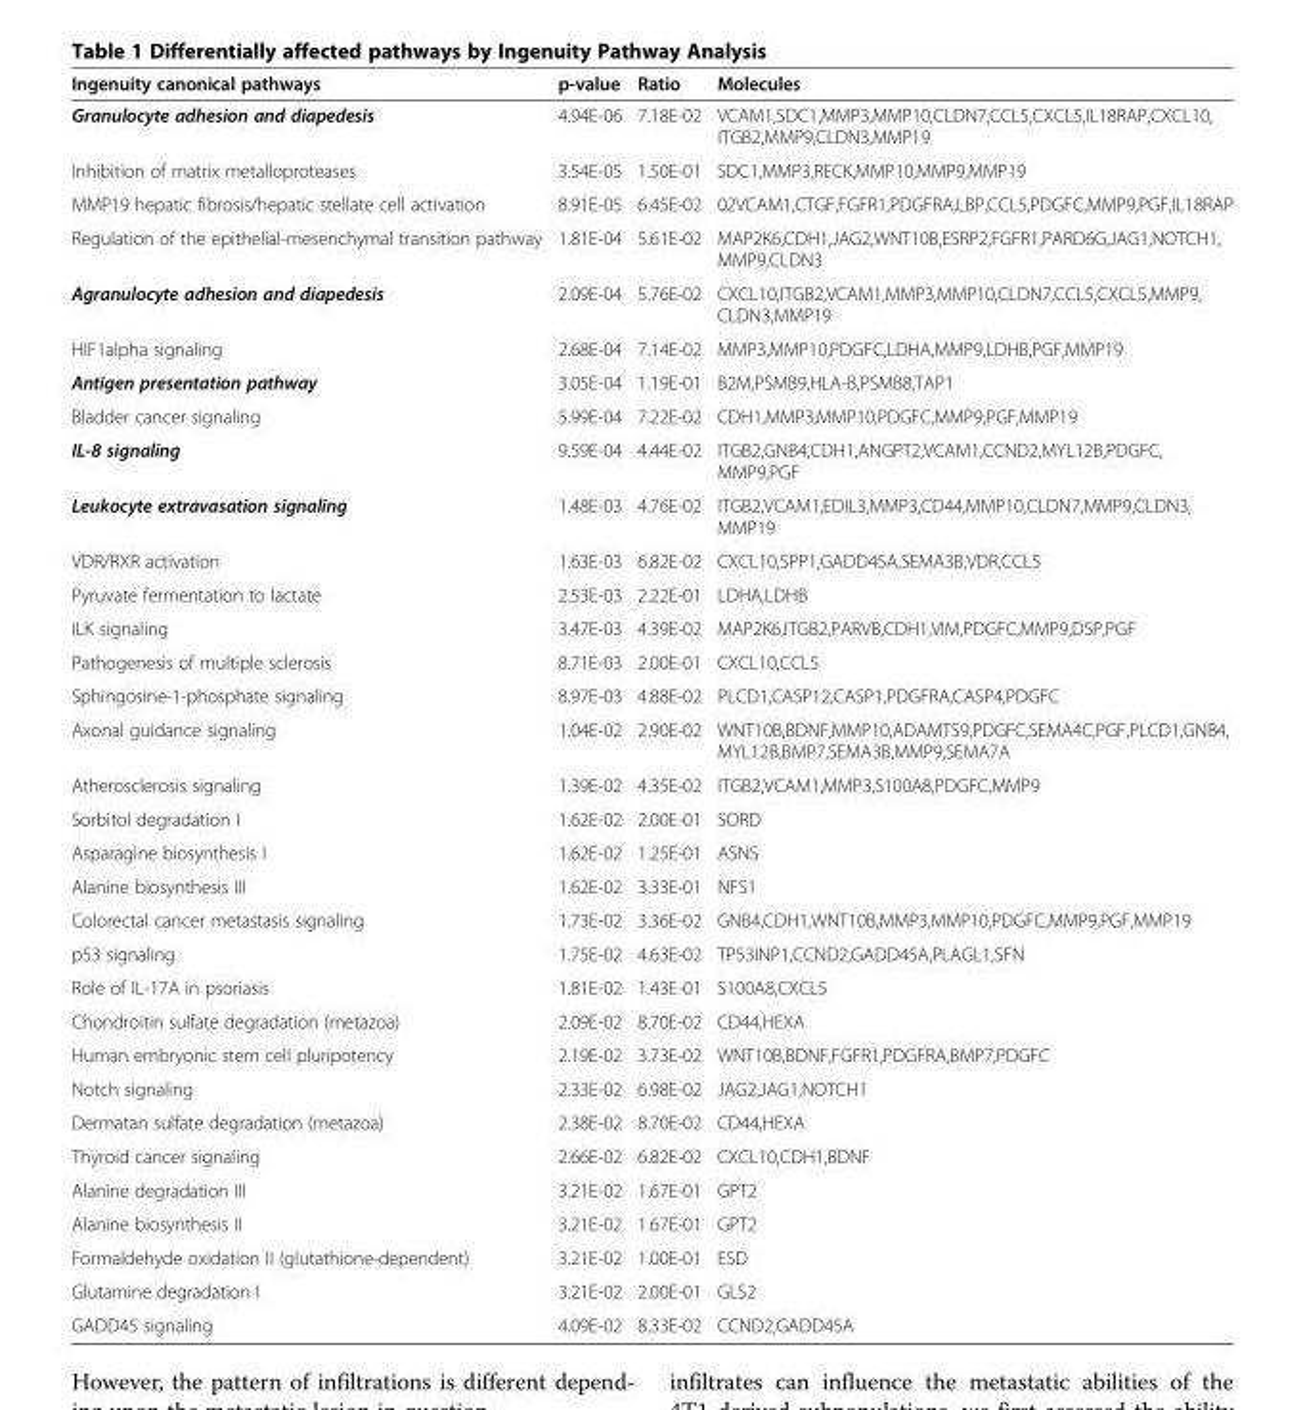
<table><thead><tr><td>Ingenuity canonical pathways</td><td>p-value</td><td>Ratio</td><td>Molecules</td></tr></thead><tbody><tr><td>Granulocyte adhesion and diapedesis</td><td>4.94E-06</td><td>7.18E-02</td><td>VCAM1,SDC1,MMP3,MMP10,CLDN7,CCL5,CXCL5,IL18RAP,CXCL10, ITGB2,MMP9,CLDN3,MMP19</td></tr><tr><td>Inhibition of matrix metalloproteases</td><td>3.54E-05</td><td>1.50E-01</td><td>SDC1,MMP3,RECK,MMP10,MMP9,MMP19</td></tr><tr><td>MMP19 hepatic fibrosis/hepatic stellate cell activation</td><td>8.91E-05</td><td>6.45E-02</td><td>02VCAM1,CTGF,FGFR1,PDGFRA,LBP,CCL5,PDGFC,MMP9,PGF,IL18RAP</td></tr><tr><td>Regulation of the epithelial-mesenchymal transition pathway</td><td>1.81E-04</td><td>5.61E-02</td><td>MAP2K6,CDH1,JAG2,WNT10B,ESRP2,FGFR1,PARD6G,JAG1,NOTCH1, MMP9,CLDN3</td></tr><tr><td>Agranulocyte adhesion and diapedesis</td><td>2.09E-04</td><td>5.76E-02</td><td>CXCL10,ITGB2,VCAM1,MMP3,MMP10,CLDN7,CCL5,CXCL5,MMP9, CLDN3,MMP19</td></tr><tr><td>HIF1alpha signaling</td><td>2.68E-04</td><td>7.14E-02</td><td>MMP3,MMP10,PDGFC,LDHA,MMP9,LDHB,PGF,MMP19</td></tr><tr><td>Antigen presentation pathway</td><td>3.05E-04</td><td>1.19E-01</td><td>B2M,PSMB9,HLA-B,PSMB8,TAP1</td></tr><tr><td>Bladder cancer signaling</td><td>5.99E-04</td><td>7.22E-02</td><td>CDH1,MMP3,MMP10,PDGFC,MMP9,PGF,MMP19</td></tr><tr><td>IL-8 signaling</td><td>9.59E-04</td><td>4.44E-02</td><td>ITGB2,GNB4,CDH1,ANGPT2,VCAM1,CCND2,MYL12B,PDGFC, MMP9,PGF</td></tr><tr><td>Leukocyte extravasation signaling</td><td>1.48E-03</td><td>4.76E-02</td><td>ITGB2,VCAM1,EDIL3,MMP3,CD44,MMP10,CLDN7,MMP9,CLDN3, MMP19</td></tr><tr><td>VDR/RXR activation</td><td>1.63E-03</td><td>6.82E-02</td><td>CXCL10,SPP1,GADD45A,SEMA3B,VDR,CCL5</td></tr><tr><td>Pyruvate fermentation to lactate</td><td>2.53E-03</td><td>2.22E-01</td><td>LDHA,LDHB</td></tr><tr><td>ILK signaling</td><td>3.47E-03</td><td>4.39E-02</td><td>MAP2K6,ITGB2,PARVB,CDH1,VIM,PDGFC,MMP9,DSP,PGF</td></tr><tr><td>Pathogenesis of multiple sclerosis</td><td>8.71E-03</td><td>2.00E-01</td><td>CXCL10,CCL5</td></tr><tr><td>Sphingosine-1-phosphate signaling</td><td>8.97E-03</td><td>4.88E-02</td><td>PLCD1,CASP12,CASP1,PDGFRA,CASP4,PDGFC</td></tr><tr><td>Axonal guidance signaling</td><td>1.04E-02</td><td>2.90E-02</td><td>WNT10B,BDNF,MMP10,ADAMTS9,PDGFC,SEMA4C,PGF,PLCD1,GNB4, MYL12B,BMP7,SEMA3B,MMP9,SEMA7A</td></tr><tr><td>Atherosclerosis signaling</td><td>1.39E-02</td><td>4.35E-02</td><td>ITGB2,VCAM1,MMP3,S100A8,PDGFC,MMP9</td></tr><tr><td>Sorbitol degradation I</td><td>1.62E-02</td><td>2.00E-01</td><td>SORD</td></tr><tr><td>Asparagine biosynthesis I</td><td>1.62E-02</td><td>1.25E-01</td><td>ASNS</td></tr><tr><td>Alanine biosynthesis III</td><td>1.62E-02</td><td>3.33E-01</td><td>NFS1</td></tr><tr><td>Colorectal cancer metastasis signaling</td><td>1.73E-02</td><td>3.36E-02</td><td>GNB4,CDH1,WNT10B,MMP3,MMP10,PDGFC,MMP9,PGF,MMP19</td></tr><tr><td>p53 signaling</td><td>1.75E-02</td><td>4.63E-02</td><td>TP53INP1,CCND2,GADD45A,PLAGL1,SFN</td></tr><tr><td>Role of IL-17A in psoriasis</td><td>1.81E-02</td><td>1.43E-01</td><td>S100A8,CXCL5</td></tr><tr><td>Chondroitin sulfate degradation (metazoa)</td><td>2.09E-02</td><td>8.70E-02</td><td>CD44,HEXA</td></tr><tr><td>Human embryonic stem cell pluripotency</td><td>2.19E-02</td><td>3.73E-02</td><td>WNT10B,BDNF,FGFR1,PDGFRA,BMP7,PDGFC</td></tr><tr><td>Notch signaling</td><td>2.33E-02</td><td>6.98E-02</td><td>JAG2,JAG1,NOTCH1</td></tr><tr><td>Dermatan sulfate degradation (metazoa)</td><td>2.38E-02</td><td>8.70E-02</td><td>CD44,HEXA</td></tr><tr><td>Thyroid cancer signaling</td><td>2.66E-02</td><td>6.82E-02</td><td>CXCL10,CDH1,BDNF</td></tr><tr><td>Alanine degradation III</td><td>3.21E-02</td><td>1.67E-01</td><td>GPT2</td></tr><tr><td>Alanine biosynthesis II</td><td>3.21E-02</td><td>1.67E-01</td><td>GPT2</td></tr><tr><td>Formaldehyde oxidation II (glutathione-dependent)</td><td>3.21E-02</td><td>1.00E-01</td><td>ESD</td></tr><tr><td>Glutamine degradation I</td><td>3.21E-02</td><td>2.00E-01</td><td>GLS2</td></tr><tr><td>GADD45 signaling</td><td>4.09E-02</td><td>8.33E-02</td><td>CCND2,GADD45A</td></tr></tbody></table>